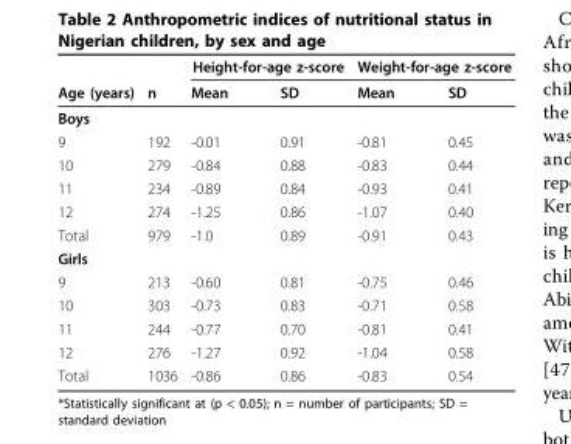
<table><thead><tr><td rowspan="2">Age (years)</td><td rowspan="2">n</td><td colspan="2">Height-for-age z-score</td><td colspan="2">Weight-for-age z-score</td></tr><tr><td>Mean</td><td>SD</td><td>Mean</td><td>SD</td></tr></thead><tbody><tr><td colspan="6">Boys</td></tr><tr><td>9</td><td>192</td><td>-0.01</td><td>0.91</td><td>-0.81</td><td>0.45</td></tr><tr><td>10</td><td>279</td><td>-0.84</td><td>0.88</td><td>-0.83</td><td>0.44</td></tr><tr><td>11</td><td>234</td><td>-0.89</td><td>0.84</td><td>-0.93</td><td>0.41</td></tr><tr><td>12</td><td>274</td><td>-1.25</td><td>0.86</td><td>-1.07</td><td>0.40</td></tr><tr><td>Total</td><td>979</td><td>-1.0</td><td>0.89</td><td>-0.91</td><td>0.43</td></tr><tr><td colspan="6">Girls</td></tr><tr><td>9</td><td>213</td><td>-0.60</td><td>0.81</td><td>-0.75</td><td>0.46</td></tr><tr><td>10</td><td>303</td><td>-0.73</td><td>0.83</td><td>-0.71</td><td>0.58</td></tr><tr><td>11</td><td>244</td><td>-0.77</td><td>0.70</td><td>-0.81</td><td>0.41</td></tr><tr><td>12</td><td>276</td><td>-1.27</td><td>0.92</td><td>-1.04</td><td>0.58</td></tr><tr><td>Total</td><td>1036</td><td>-0.86</td><td>0.86</td><td>-0.83</td><td>0.54</td></tr></tbody></table>